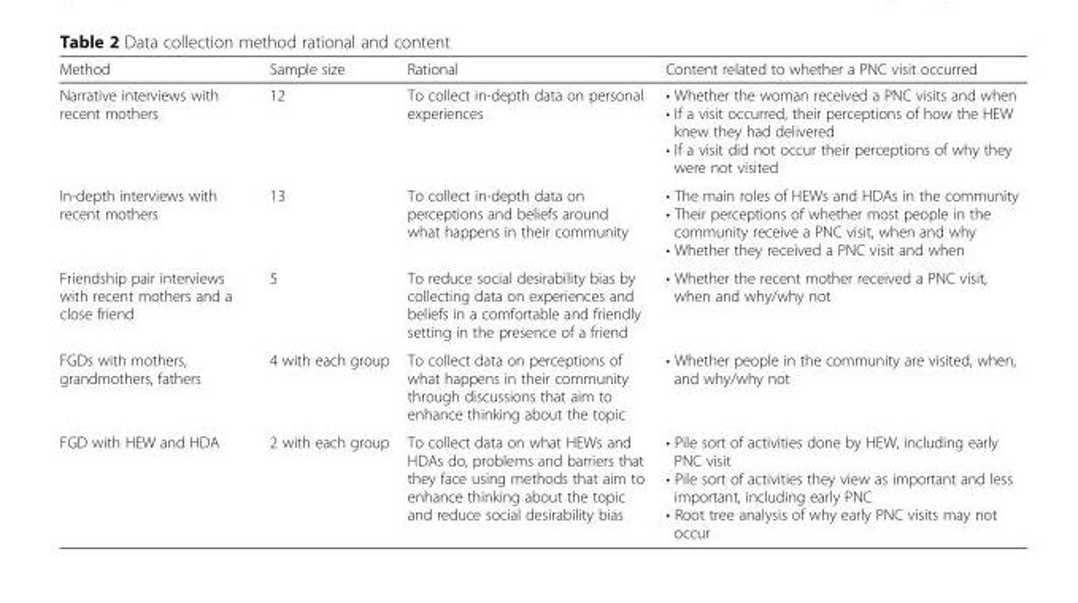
<table><thead><tr><td>Method</td><td>Sample size</td><td>Rational</td><td>Content related to whether a PNC visit occurred</td></tr></thead><tbody><tr><td>Narrative interviews with recent mothers</td><td>12</td><td>To collect in-depth data on personal experiences</td><td>• Whether the woman received a PNC visits and when • If a visit occurred, their perceptions of how the HEW knew they had delivered • If a visit did not occur their perceptions of why they were not visited</td></tr><tr><td>In-depth interviews with recent mothers</td><td>13</td><td>To collect in-depth data on perceptions and beliefs around what happens in their community</td><td>• The main roles of HEWs and HDAs in the community • Their perceptions of whether most people in the community receive a PNC visit, when and why • Whether they received a PNC visit and when</td></tr><tr><td>Friendship pair interviews with recent mothers and a close friend</td><td>5</td><td>To reduce social desirability bias by collecting data on experiences and beliefs in a comfortable and friendly setting in the presence of a friend</td><td>• Whether the recent mother received a PNC visit, when and why/why not</td></tr><tr><td>FGDs with mothers, grandmothers, fathers</td><td>4 with each group</td><td>To collect data on perceptions of what happens in their community through discussions that aim to enhance thinking about the topic</td><td>• Whether people in the community are visited, when, and why/why not</td></tr><tr><td>FGD with HEW and HDA</td><td>2 with each group</td><td>To collect data on what HEWs and HDAs do, problems and barriers that they face using methods that aim to enhance thinking about the topic and reduce social desirability bias</td><td>• Pile sort of activities done by HEW, including early PNC visit • Pile sort of activities they view as important and less important, including early PNC • Root tree analysis of why early PNC visits may not occur</td></tr></tbody></table>